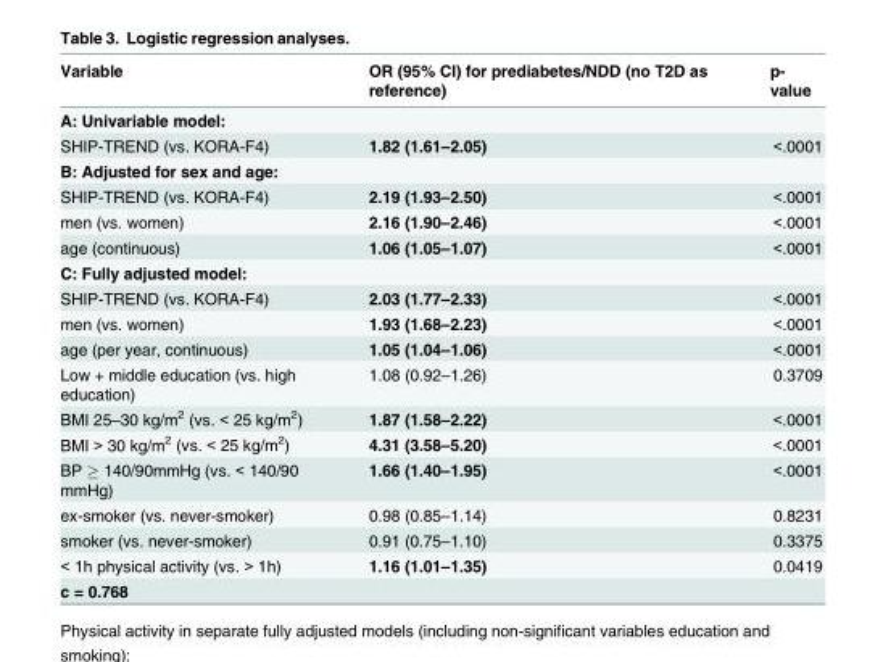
<table><thead><tr><td>Variable</td><td>OR (95% CI) for prediabetes/NDD (no T2D as reference)</td><td>p- value</td></tr></thead><tbody><tr><td colspan="3">A: Univariable model:</td></tr><tr><td>SHIP-TREND (vs. KORA-F4)</td><td>1.82 (1.61–2.05)</td><td>&lt;.0001</td></tr><tr><td colspan="3">B: Adjusted for sex and age:</td></tr><tr><td>SHIP-TREND (vs. KORA-F4)</td><td>2.19 (1.93–2.50)</td><td>&lt;.0001</td></tr><tr><td>men (vs. women)</td><td>2.16 (1.90–2.46)</td><td>&lt;.0001</td></tr><tr><td>age (continuous)</td><td>1.06 (1.05–1.07)</td><td>&lt;.0001</td></tr><tr><td colspan="3">C: Fully adjusted model:</td></tr><tr><td>SHIP-TREND (vs. KORA-F4)</td><td>2.03 (1.77–2.33)</td><td>&lt;.0001</td></tr><tr><td>men (vs. women)</td><td>1.93 (1.68–2.23)</td><td>&lt;.0001</td></tr><tr><td>age (per year, continuous)</td><td>1.05 (1.04–1.06)</td><td>&lt;.0001</td></tr><tr><td>Low + middle education (vs. high education)</td><td>1.08 (0.92–1.26)</td><td>0.3709</td></tr><tr><td>BMI 25–30 kg/m<sup>2</sup> (vs. &lt; 25 kg/m<sup>2</sup>)</td><td>1.87 (1.58–2.22)</td><td>&lt;.0001</td></tr><tr><td>BMI &gt; 30 kg/m<sup>2</sup> (vs. &lt; 25 kg/m<sup>2</sup>)</td><td>4.31 (3.58–5.20)</td><td>&lt;.0001</td></tr><tr><td>BP ≥ 140/90mmHg (vs. &lt; 140/90 mmHg)</td><td>1.66 (1.40–1.95)</td><td>&lt;.0001</td></tr><tr><td>ex-smoker (vs. never-smoker)</td><td>0.98 (0.85–1.14)</td><td>0.8231</td></tr><tr><td>smoker (vs. never-smoker)</td><td>0.91 (0.75–1.10)</td><td>0.3375</td></tr><tr><td>&lt; 1h physical activity (vs. &gt; 1h)</td><td>1.16 (1.01–1.35)</td><td>0.0419</td></tr><tr><td>c = 0.768</td><td></td><td></td></tr></tbody></table>